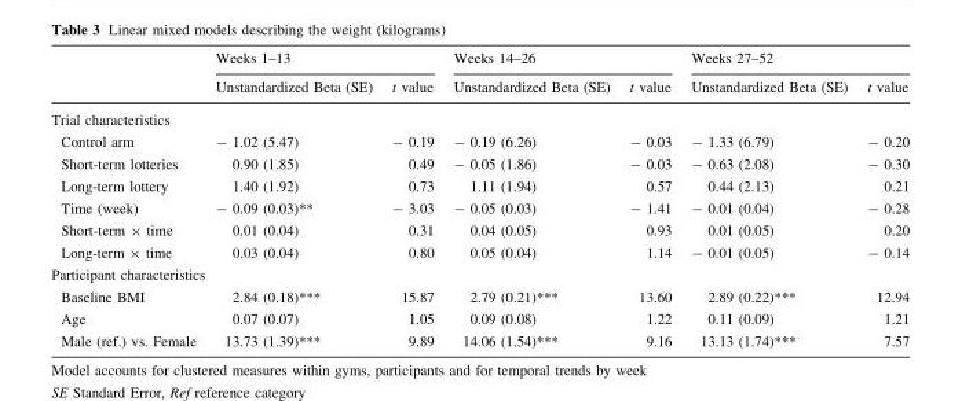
<table><thead><tr><td rowspan="2"></td><td colspan="2">Weeks 1–13</td><td colspan="2">Weeks 14–26</td><td colspan="2">Weeks 27–52</td></tr><tr><td>Unstandardized Beta (SE)</td><td>t value</td><td>Unstandardized Beta (SE)</td><td>t value</td><td>Unstandardized Beta (SE)</td><td>t value</td></tr></thead><tbody><tr><td colspan="7">Trial characteristics</td></tr><tr><td>Control arm</td><td>- 1.02 (5.47)</td><td>- 0.19</td><td>- 0.19 (6.26)</td><td>- 0.03</td><td>- 1.33 (6.79)</td><td>- 0.20</td></tr><tr><td>Short-term lotteries</td><td>0.90 (1.85)</td><td>0.49</td><td>- 0.05 (1.86)</td><td>- 0.03</td><td>- 0.63 (2.08)</td><td>- 0.30</td></tr><tr><td>Long-term lottery</td><td>1.40 (1.92)</td><td>0.73</td><td>1.11 (1.94)</td><td>0.57</td><td>0.44 (2.13)</td><td>0.21</td></tr><tr><td>Time (week)</td><td>- 0.09 (0.03)**</td><td>- 3.03</td><td>- 0.05 (0.03)</td><td>- 1.41</td><td>- 0.01 (0.04)</td><td>- 0.28</td></tr><tr><td>Short-term × time</td><td>0.01 (0.04)</td><td>0.31</td><td>0.04 (0.05)</td><td>0.93</td><td>0.01 (0.05)</td><td>0.20</td></tr><tr><td>Long-term × time</td><td>0.03 (0.04)</td><td>0.80</td><td>0.05 (0.04)</td><td>1.14</td><td>- 0.01 (0.05)</td><td>- 0.14</td></tr><tr><td colspan="7">Participant characteristics</td></tr><tr><td>Baseline BMI</td><td>2.84 (0.18)***</td><td>15.87</td><td>2.79 (0.21)***</td><td>13.60</td><td>2.89 (0.22)***</td><td>12.94</td></tr><tr><td>Age</td><td>0.07 (0.07)</td><td>1.05</td><td>0.09 (0.08)</td><td>1.22</td><td>0.11 (0.09)</td><td>1.21</td></tr><tr><td>Male (ref.) vs. Female</td><td>13.73 (1.39)***</td><td>9.89</td><td>14.06 (1.54)***</td><td>9.16</td><td>13.13 (1.74)***</td><td>7.57</td></tr></tbody></table>